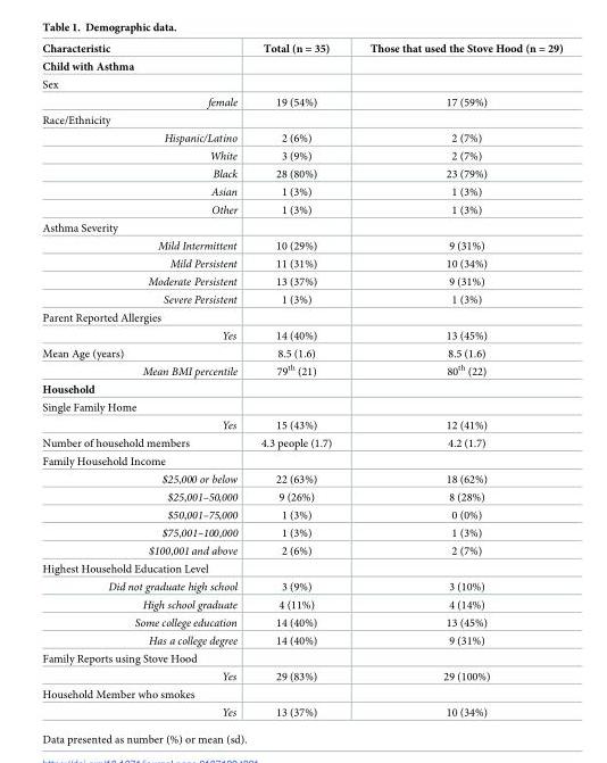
<table><thead><tr><td>Characteristic</td><td>Total (n = 35)</td><td>Those that used the Stove Hood (n = 29)</td></tr></thead><tbody><tr><td colspan="3">Child with Asthma</td></tr><tr><td colspan="3">Sex</td></tr><tr><td>female</td><td>19 (54%)</td><td>17 (59%)</td></tr><tr><td colspan="3">Race/Ethnicity</td></tr><tr><td>Hispanic/Latino</td><td>2 (6%)</td><td>2 (7%)</td></tr><tr><td>White</td><td>3 (9%)</td><td>2 (7%)</td></tr><tr><td>Black</td><td>28 (80%)</td><td>23 (79%)</td></tr><tr><td>Asian</td><td>1 (3%)</td><td>1 (3%)</td></tr><tr><td>Other</td><td>1 (3%)</td><td>1 (3%)</td></tr><tr><td colspan="3">Asthma Severity</td></tr><tr><td>Mild Intermittent</td><td>10 (29%)</td><td>9 (31%)</td></tr><tr><td>Mild Persistent</td><td>11 (31%)</td><td>10 (34%)</td></tr><tr><td>Moderate Persistent</td><td>13 (37%)</td><td>9 (31%)</td></tr><tr><td>Severe Persistent</td><td>1 (3%)</td><td>1 (3%)</td></tr><tr><td colspan="3">Parent Reported Allergies</td></tr><tr><td>Yes</td><td>14 (40%)</td><td>13 (45%)</td></tr><tr><td>Mean Age (years)</td><td>8.5 (1.6)</td><td>8.5 (1.6)</td></tr><tr><td>Mean BMI percentile</td><td>79<sup>th</sup> (21)</td><td>80<sup>th</sup> (22)</td></tr><tr><td colspan="3">Household</td></tr><tr><td colspan="3">Single Family Home</td></tr><tr><td>Yes</td><td>15 (43%)</td><td>12 (41%)</td></tr><tr><td>Number of household members</td><td>4.3 people (1.7)</td><td>4.2 (1.7)</td></tr><tr><td colspan="3">Family Household Income</td></tr><tr><td>$25,000 or below</td><td>22 (63%)</td><td>18 (62%)</td></tr><tr><td>$25,001–50,000</td><td>9 (26%)</td><td>8 (28%)</td></tr><tr><td>$50,001–75,000</td><td>1 (3%)</td><td>0 (0%)</td></tr><tr><td>$75,001–100,000</td><td>1 (3%)</td><td>1 (3%)</td></tr><tr><td>$100,001 and above</td><td>2 (6%)</td><td>2 (7%)</td></tr><tr><td colspan="3">Highest Household Education Level</td></tr><tr><td>Did not graduate high school</td><td>3 (9%)</td><td>3 (10%)</td></tr><tr><td>High school graduate</td><td>4 (11%)</td><td>4 (14%)</td></tr><tr><td>Some college education</td><td>14 (40%)</td><td>13 (45%)</td></tr><tr><td>Has a college degree</td><td>14 (40%)</td><td>9 (31%)</td></tr><tr><td colspan="3">Family Reports using Stove Hood</td></tr><tr><td>Yes</td><td>29 (83%)</td><td>29 (100%)</td></tr><tr><td colspan="3">Household Member who smokes</td></tr><tr><td>Yes</td><td>13 (37%)</td><td>10 (34%)</td></tr></tbody></table>